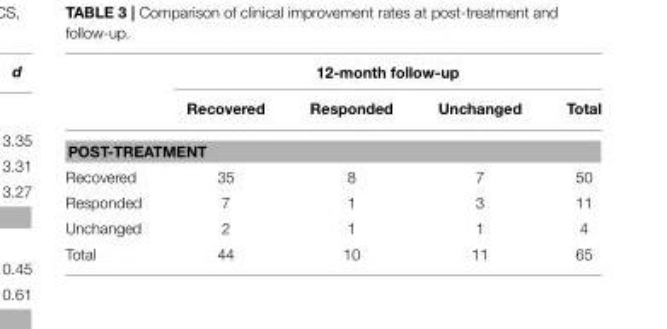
<table><thead><tr><td rowspan="2"></td><td colspan="4">12-month follow-up</td></tr><tr><td>Recovered</td><td>Responded</td><td>Unchanged</td><td>Total</td></tr></thead><tbody><tr><td colspan="5">POST-TREATMENT</td></tr><tr><td>Recovered</td><td>35</td><td>8</td><td>7</td><td>50</td></tr><tr><td>Responded</td><td>7</td><td>1</td><td>3</td><td>11</td></tr><tr><td>Unchanged</td><td>2</td><td>1</td><td>1</td><td>4</td></tr><tr><td>Total</td><td>44</td><td>10</td><td>11</td><td>65</td></tr></tbody></table>